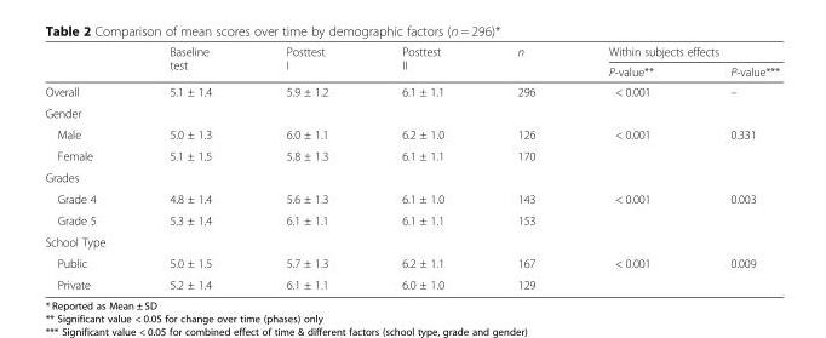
<table><thead><tr><td rowspan="2"></td><td rowspan="2">Baseline test</td><td rowspan="2">Posttest I</td><td rowspan="2">Posttest II</td><td rowspan="2">n</td><td colspan="2">Within subjects effects</td></tr><tr><td>P-value**</td><td>P-value***</td></tr></thead><tbody><tr><td>Overall</td><td>5.1 ± 1.4</td><td>5.9 ± 1.2</td><td>6.1 ± 1.1</td><td>296</td><td>&lt; 0.001</td><td>–</td></tr><tr><td colspan="7">Gender</td></tr><tr><td>Male</td><td>5.0 ± 1.3</td><td>6.0 ± 1.1</td><td>6.2 ± 1.0</td><td>126</td><td rowspan="2">&lt; 0.001</td><td rowspan="2">0.331</td></tr><tr><td>Female</td><td>5.1 ± 1.5</td><td>5.8 ± 1.3</td><td>6.1 ± 1.1</td><td>170</td></tr><tr><td colspan="7">Grades</td></tr><tr><td>Grade 4</td><td>4.8 ± 1.4</td><td>5.6 ± 1.3</td><td>6.1 ± 1.0</td><td>143</td><td rowspan="2">&lt; 0.001</td><td rowspan="2">0.003</td></tr><tr><td>Grade 5</td><td>5.3 ± 1.4</td><td>6.1 ± 1.1</td><td>6.1 ± 1.1</td><td>153</td></tr><tr><td colspan="7">School Type</td></tr><tr><td>Public</td><td>5.0 ± 1.5</td><td>5.7 ± 1.3</td><td>6.2 ± 1.1</td><td>167</td><td rowspan="2">&lt; 0.001</td><td rowspan="2">0.009</td></tr><tr><td>Private</td><td>5.2 ± 1.4</td><td>6.1 ± 1.1</td><td>6.0 ± 1.0</td><td>129</td></tr></tbody></table>